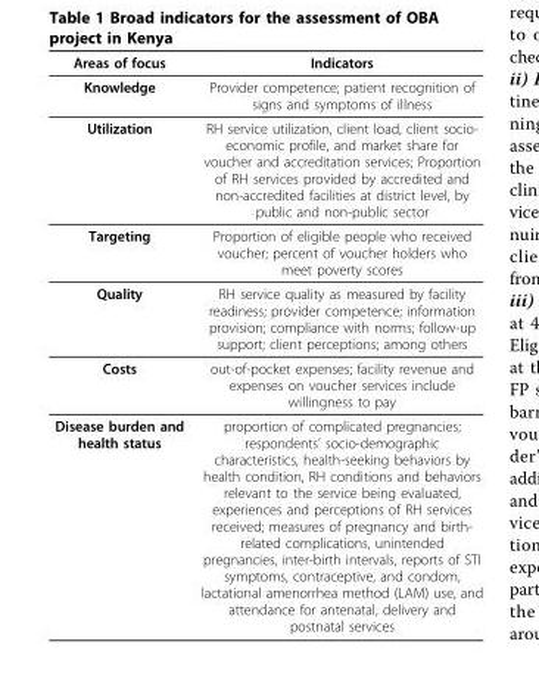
<table><thead><tr><td>Areas of focus</td><td>Indicators</td></tr></thead><tbody><tr><td>Knowledge</td><td>Provider competence; patient recognition of signs and symptoms of illness</td></tr><tr><td>Utilization</td><td>RH service utilization, client load, client socio- economic profile, and market share for voucher and accreditation services; Proportion of RH services provided by accredited and non-accredited facilities at district level, by public and non-public sector</td></tr><tr><td>Targeting</td><td>Proportion of eligible people who received voucher; percent of voucher holders who meet poverty scores</td></tr><tr><td>Quality</td><td>RH service quality as measured by facility readiness; provider competence; information provision; compliance with norms; follow-up support; client perceptions; among others</td></tr><tr><td>Costs</td><td>out-of-pocket expenses; facility revenue and expenses on voucher services include willingness to pay</td></tr><tr><td>Disease burden and health status</td><td>proportion of complicated pregnancies; respondents’ socio-demographic characteristics, health-seeking behaviors by health condition, RH conditions and behaviors relevant to the service being evaluated, experiences and perceptions of RH services received; measures of pregnancy and birth- related complications, unintended pregnancies, inter-birth intervals, reports of STI symptoms, contraceptive, and condom, lactational amenorrhea method (LAM) use, and attendance for antenatal, delivery and postnatal services</td></tr></tbody></table>